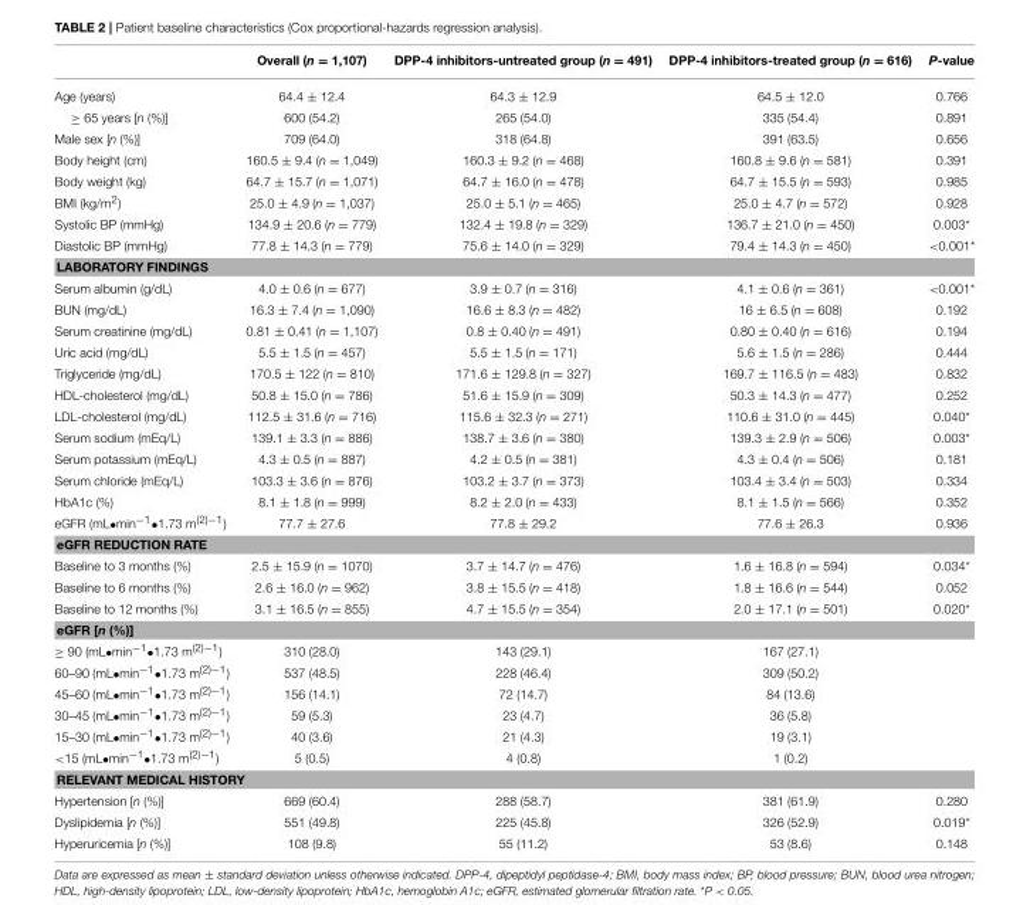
<table><thead><tr><td></td><td>Overall (n = 1,107)</td><td>DPP-4 inhibitors-untreated group (n = 491)</td><td>DPP-4 inhibitors-treated group (n = 616)</td><td>P-value</td></tr></thead><tbody><tr><td>Age (years)</td><td>64.4 ± 12.4</td><td>64.3 ± 12.9</td><td>64.5 ± 12.0</td><td>0.766</td></tr><tr><td>≥ 65 years [n (%)]</td><td>600 (54.2)</td><td>265 (54.0)</td><td>335 (54.4)</td><td>0.891</td></tr><tr><td>Male sex [n (%)]</td><td>709 (64.0)</td><td>318 (64.8)</td><td>391 (63.5)</td><td>0.656</td></tr><tr><td>Body height (cm)</td><td>160.5 ± 9.4 (n = 1,049)</td><td>160.3 ± 9.2 (n = 468)</td><td>160.8 ± 9.6 (n = 581)</td><td>0.391</td></tr><tr><td>Body weight (kg)</td><td>64.7 ± 15.7 (n = 1,071)</td><td>64.7 ± 16.0 (n = 478)</td><td>64.7 ± 15.5 (n = 593)</td><td>0.985</td></tr><tr><td>BMI (kg/m<sup>2</sup>)</td><td>25.0 ± 4.9 (n = 1,037)</td><td>25.0 ± 5.1 (n = 465)</td><td>25.0 ± 4.7 (n = 572)</td><td>0.928</td></tr><tr><td>Systolic BP (mmHg)</td><td>134.9 ± 20.6 (n = 779)</td><td>132.4 ± 19.8 (n = 329)</td><td>136.7 ± 21.0 (n = 450)</td><td>0.003*</td></tr><tr><td>Diastolic BP (mmHg)</td><td>77.8 ± 14.3 (n = 779)</td><td>75.6 ± 14.0 (n = 329)</td><td>79.4 ± 14.3 (n = 450)</td><td>&lt;0.001*</td></tr><tr><td colspan="5">LABORATORY FINDINGS</td></tr><tr><td>Serum albumin (g/dL)</td><td>4.0 ± 0.6 (n = 677)</td><td>3.9 ± 0.7 (n = 316)</td><td>4.1 ± 0.6 (n = 361)</td><td>&lt;0.001*</td></tr><tr><td>BUN (mg/dL)</td><td>16.3 ± 7.4 (n = 1,090)</td><td>16.6 ± 8.3 (n = 482)</td><td>16 ± 6.5 (n = 608)</td><td>0.192</td></tr><tr><td>Serum creatinine (mg/dL)</td><td>0.81 ± 0.41 (n = 1,107)</td><td>0.8 ± 0.40 (n = 491)</td><td>0.80 ± 0.40 (n = 616)</td><td>0.194</td></tr><tr><td>Uric acid (mg/dL)</td><td>5.5 ± 1.5 (n = 457)</td><td>5.5 ± 1.5 (n = 171)</td><td>5.6 ± 1.5 (n = 286)</td><td>0.444</td></tr><tr><td>Triglyceride (mg/dL)</td><td>170.5 ± 122 (n = 810)</td><td>171.6 ± 129.8 (n = 327)</td><td>169.7 ± 116.5 (n = 483)</td><td>0.832</td></tr><tr><td>HDL-cholesterol (mg/dL)</td><td>50.8 ± 15.0 (n = 786)</td><td>51.6 ± 15.9 (n = 309)</td><td>50.3 ± 14.3 (n = 477)</td><td>0.252</td></tr><tr><td>LDL-cholesterol (mg/dL)</td><td>112.5 ± 31.6 (n = 716)</td><td>115.6 ± 32.3 (n = 271)</td><td>110.6 ± 31.0 (n = 445)</td><td>0.040*</td></tr><tr><td>Serum sodium (mEq/L)</td><td>139.1 ± 3.3 (n = 886)</td><td>138.7 ± 3.6 (n = 380)</td><td>139.3 ± 2.9 (n = 506)</td><td>0.003*</td></tr><tr><td>Serum potassium (mEq/L)</td><td>4.3 ± 0.5 (n = 887)</td><td>4.2 ± 0.5 (n = 381)</td><td>4.3 ± 0.4 (n = 506)</td><td>0.181</td></tr><tr><td>Serum chloride (mEq/L)</td><td>103.3 ± 3.6 (n = 876)</td><td>103.2 ± 3.7 (n = 373)</td><td>103.4 ± 3.4 (n = 503)</td><td>0.334</td></tr><tr><td>HbA1c (%)</td><td>8.1 ± 1.8 (n = 999)</td><td>8.2 ± 2.0 (n = 433)</td><td>8.1 ± 1.5 (n = 566)</td><td>0.352</td></tr><tr><td>eGFR (mL•min<sup>−1</sup>•1.73 m<sup>(2)−1</sup>)</td><td>77.7 ± 27.6</td><td>77.8 ± 29.2</td><td>77.6 ± 26.3</td><td>0.936</td></tr><tr><td colspan="5">eGFR REDUCTION RATE</td></tr><tr><td>Baseline to 3 months (%)</td><td>2.5 ± 15.9 (n = 1070)</td><td>3.7 ± 14.7 (n = 476)</td><td>1.6 ± 16.8 (n = 594)</td><td>0.034*</td></tr><tr><td>Baseline to 6 months (%)</td><td>2.6 ± 16.0 (n = 962)</td><td>3.8 ± 15.5 (n = 418)</td><td>1.8 ± 16.6 (n = 544)</td><td>0.052</td></tr><tr><td>Baseline to 12 months (%)</td><td>3.1 ± 16.5 (n = 855)</td><td>4.7 ± 15.5 (n = 354)</td><td>2.0 ± 17.1 (n = 501)</td><td>0.020*</td></tr><tr><td colspan="5">eGFR [n (%)]</td></tr><tr><td>≥ 90 (mL•min<sup>−1</sup>•1.73 m<sup>(2)−1</sup>)</td><td>310 (28.0)</td><td>143 (29.1)</td><td>167 (27.1)</td><td></td></tr><tr><td>60–90 (mL•min<sup>−1</sup>•1.73 m<sup>(2)−1</sup>)</td><td>537 (48.5)</td><td>228 (46.4)</td><td>309 (50.2)</td><td></td></tr><tr><td>45–60 (mL•min<sup>−1</sup>•1.73 m<sup>(2)−1</sup>)</td><td>156 (14.1)</td><td>72 (14.7)</td><td>84 (13.6)</td><td></td></tr><tr><td>30–45 (mL•min<sup>−1</sup>•1.73 m<sup>(2)−1</sup>)</td><td>59 (5.3)</td><td>23 (4.7)</td><td>36 (5.8)</td><td></td></tr><tr><td>15–30 (mL•min<sup>−1</sup>•1.73 m<sup>(2)−1</sup>)</td><td>40 (3.6)</td><td>21 (4.3)</td><td>19 (3.1)</td><td></td></tr><tr><td>&lt;15 (mL•min<sup>−1</sup>•1.73 m<sup>(2)−1</sup>)</td><td>5 (0.5)</td><td>4 (0.8)</td><td>1 (0.2)</td><td></td></tr><tr><td colspan="5">RELEVANT MEDICAL HISTORY</td></tr><tr><td>Hypertension [n (%)]</td><td>669 (60.4)</td><td>288 (58.7)</td><td>381 (61.9)</td><td>0.280</td></tr><tr><td>Dyslipidemia [n (%)]</td><td>551 (49.8)</td><td>225 (45.8)</td><td>326 (52.9)</td><td>0.019*</td></tr><tr><td>Hyperuricemia [n (%)]</td><td>108 (9.8)</td><td>55 (11.2)</td><td>53 (8.6)</td><td>0.148</td></tr></tbody></table>